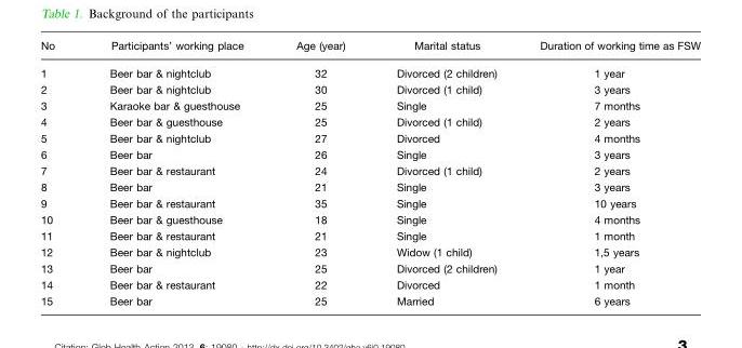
<table><thead><tr><td>No</td><td>Participants’ working place</td><td>Age (year)</td><td>Marital status</td><td>Duration of working time as FSW</td></tr></thead><tbody><tr><td>1</td><td>Beer bar &amp; nightclub</td><td>32</td><td>Divorced (2 children)</td><td>1 year</td></tr><tr><td>2</td><td>Beer bar &amp; nightclub</td><td>30</td><td>Divorced (1 child)</td><td>3 years</td></tr><tr><td>3</td><td>Karaoke bar &amp; guesthouse</td><td>25</td><td>Single</td><td>7 months</td></tr><tr><td>4</td><td>Beer bar &amp; guesthouse</td><td>25</td><td>Divorced (1 child)</td><td>2 years</td></tr><tr><td>5</td><td>Beer bar &amp; nightclub</td><td>27</td><td>Divorced</td><td>4 months</td></tr><tr><td>6</td><td>Beer bar</td><td>26</td><td>Single</td><td>3 years</td></tr><tr><td>7</td><td>Beer bar &amp; restaurant</td><td>24</td><td>Divorced (1 child)</td><td>2 years</td></tr><tr><td>8</td><td>Beer bar</td><td>21</td><td>Single</td><td>3 years</td></tr><tr><td>9</td><td>Beer bar &amp; restaurant</td><td>35</td><td>Single</td><td>10 years</td></tr><tr><td>10</td><td>Beer bar &amp; guesthouse</td><td>18</td><td>Single</td><td>4 months</td></tr><tr><td>11</td><td>Beer bar &amp; restaurant</td><td>21</td><td>Single</td><td>1 month</td></tr><tr><td>12</td><td>Beer bar &amp; nightclub</td><td>23</td><td>Widow (1 child)</td><td>1,5 years</td></tr><tr><td>13</td><td>Beer bar</td><td>25</td><td>Divorced (2 children)</td><td>1 year</td></tr><tr><td>14</td><td>Beer bar &amp; restaurant</td><td>22</td><td>Divorced</td><td>1 month</td></tr><tr><td>15</td><td>Beer bar</td><td>25</td><td>Married</td><td>6 years</td></tr></tbody></table>